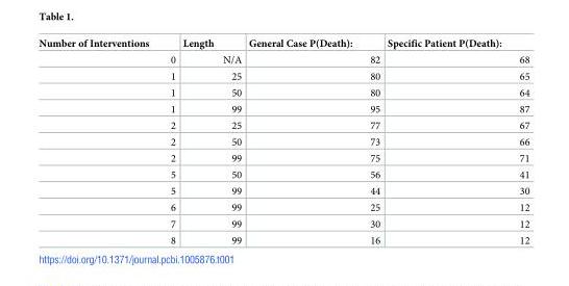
<table><thead><tr><td>Number of Interventions</td><td>Length</td><td>General Case P(Death):</td><td>Specific Patient P(Death):</td></tr></thead><tbody><tr><td>0</td><td>N/A</td><td>82</td><td>68</td></tr><tr><td>1</td><td>25</td><td>80</td><td>65</td></tr><tr><td>1</td><td>50</td><td>80</td><td>64</td></tr><tr><td>1</td><td>99</td><td>95</td><td>87</td></tr><tr><td>2</td><td>25</td><td>77</td><td>67</td></tr><tr><td>2</td><td>50</td><td>73</td><td>66</td></tr><tr><td>2</td><td>99</td><td>75</td><td>71</td></tr><tr><td>5</td><td>50</td><td>56</td><td>41</td></tr><tr><td>5</td><td>99</td><td>44</td><td>30</td></tr><tr><td>6</td><td>99</td><td>25</td><td>12</td></tr><tr><td>7</td><td>99</td><td>30</td><td>12</td></tr><tr><td>8</td><td>99</td><td>16</td><td>12</td></tr></tbody></table>